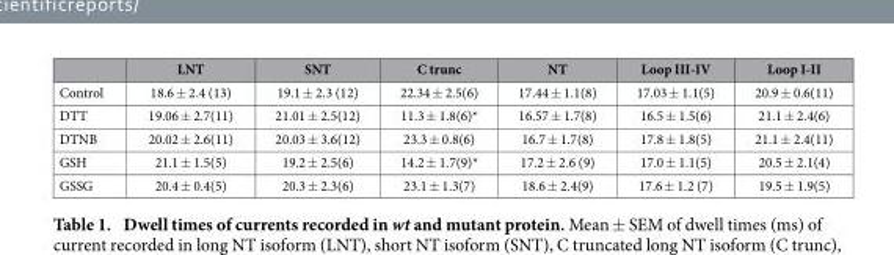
<table><thead><tr><td></td><td>LNT</td><td>SNT</td><td>C trunc</td><td>NT</td><td>Loop III-IV</td><td>Loop I-II</td></tr></thead><tbody><tr><td>Control</td><td>18.6 ± 2.4 (13)</td><td>19.1 ± 2.3 (12)</td><td>22.34 ± 2.5(6)</td><td>17.44 ± 1.1(8)</td><td>17.03 ± 1.1(5)</td><td>20.9 ± 0.6(11)</td></tr><tr><td>DTT</td><td>19.06 ± 2.7(11)</td><td>21.01 ± 2.5(12)</td><td>11.3 ± 1.8(6)*</td><td>16.57 ± 1.7(8)</td><td>16.5 ± 1.5(6)</td><td>21.1 ± 2.4(6)</td></tr><tr><td>DTNB</td><td>20.02 ± 2.6(11)</td><td>20.03 ± 3.6(12)</td><td>23.3 ± 0.8(6)</td><td>16.7 ± 1.7(8)</td><td>17.8 ± 1.8(5)</td><td>21.1 ± 2.4(11)</td></tr><tr><td>GSH</td><td>21.1 ± 1.5(5)</td><td>19.2 ± 2.5(6)</td><td>14.2 ± 1.7(9)*</td><td>17.2 ± 2.6 (9)</td><td>17.0 ± 1.1(5)</td><td>20.5 ± 2.1(4)</td></tr><tr><td>GSSG</td><td>20.4 ± 0.4(5)</td><td>20.3 ± 2.3(6)</td><td>23.1 ± 1.3(7)</td><td>18.6 ± 2.4(9)</td><td>17.6 ± 1.2 (7)</td><td>19.5 ± 1.9(5)</td></tr></tbody></table>